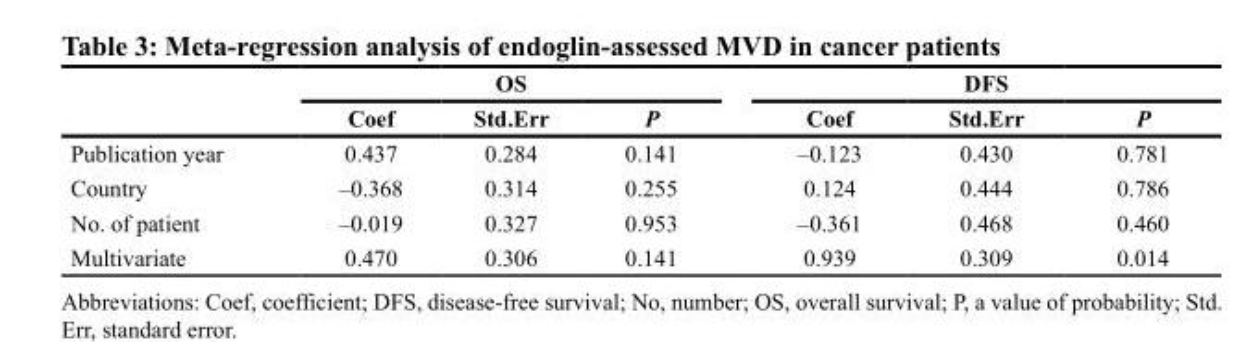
<table><thead><tr><td rowspan="2"></td><td rowspan="2">Coef</td><td rowspan="2">OS Std.Err</td><td rowspan="2">P</td><td rowspan="2">Coef</td><td rowspan="2">DFS Std.Err</td><td rowspan="2">P</td></tr><tr></tr></thead><tbody><tr><td>Publication year</td><td>0.437</td><td>0.284</td><td>0.141</td><td>–0.123</td><td>0.430</td><td>0.781</td></tr><tr><td>Country</td><td>–0.368</td><td>0.314</td><td>0.255</td><td>0.124</td><td>0.444</td><td>0.786</td></tr><tr><td>No. of patient</td><td>–0.019</td><td>0.327</td><td>0.953</td><td>–0.361</td><td>0.468</td><td>0.460</td></tr><tr><td>Multivariate</td><td>0.470</td><td>0.306</td><td>0.141</td><td>0.939</td><td>0.309</td><td>0.014</td></tr></tbody></table>